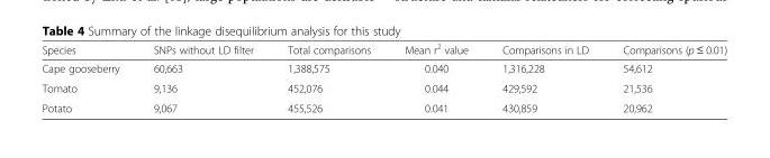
<table><thead><tr><td>Species</td><td>SNPs without LD filter</td><td>Total comparisons</td><td>Mean r<sup>2</sup> value</td><td>Comparisons in LD</td><td>Comparisons (p ≤ 0.01)</td></tr></thead><tbody><tr><td>Cape gooseberry</td><td>60,663</td><td>1,388,575</td><td>0.040</td><td>1,316,228</td><td>54,612</td></tr><tr><td>Tomato</td><td>9,136</td><td>452,076</td><td>0.044</td><td>429,592</td><td>21,536</td></tr><tr><td>Potato</td><td>9,067</td><td>455,526</td><td>0.041</td><td>430,859</td><td>20,962</td></tr></tbody></table>